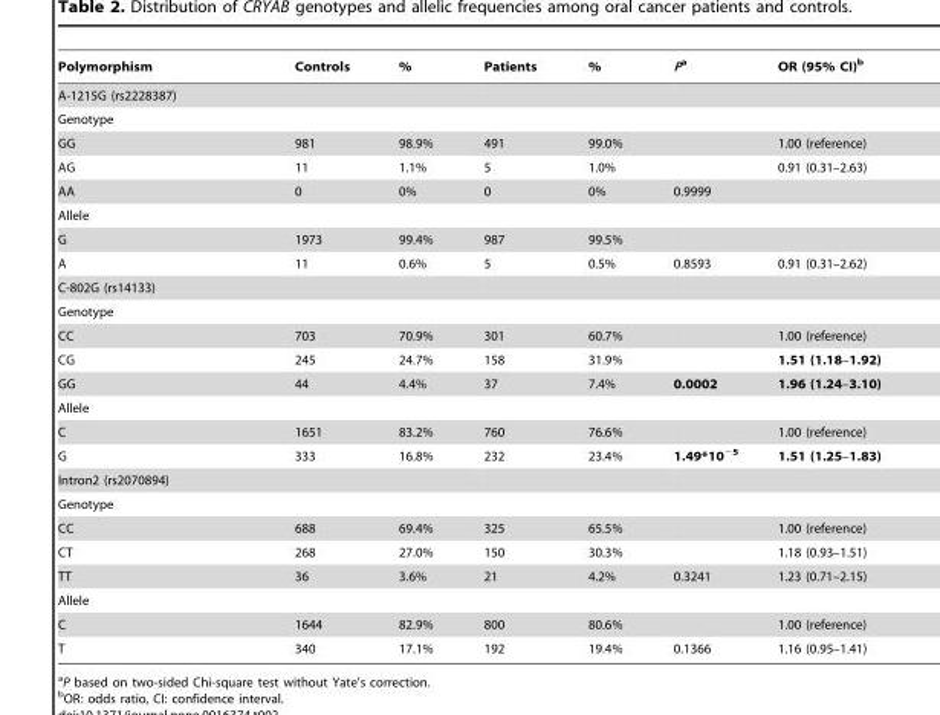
<table><thead><tr><td>Polymorphism</td><td>Controls</td><td>%</td><td>Patients</td><td>%</td><td>Pa</td><td>OR (95% CI)<sup>b</sup></td></tr></thead><tbody><tr><td colspan="7">A-1215G (rs2228387)</td></tr><tr><td colspan="7">Genotype</td></tr><tr><td>GG</td><td>981</td><td>98.9%</td><td>491</td><td>99.0%</td><td></td><td>1.00 (reference)</td></tr><tr><td>AG</td><td>11</td><td>1.1%</td><td>5</td><td>1.0%</td><td></td><td>0.91 (0.31–2.63)</td></tr><tr><td>AA</td><td>0</td><td>0%</td><td>0</td><td>0%</td><td>0.9999</td><td></td></tr><tr><td colspan="7">Allele</td></tr><tr><td>G</td><td>1973</td><td>99.4%</td><td>987</td><td>99.5%</td><td></td><td></td></tr><tr><td>A</td><td>11</td><td>0.6%</td><td>5</td><td>0.5%</td><td>0.8593</td><td>0.91 (0.31–2.62)</td></tr><tr><td colspan="7">C-802G (rs14133)</td></tr><tr><td colspan="7">Genotype</td></tr><tr><td>CC</td><td>703</td><td>70.9%</td><td>301</td><td>60.7%</td><td></td><td>1.00 (reference)</td></tr><tr><td>CG</td><td>245</td><td>24.7%</td><td>158</td><td>31.9%</td><td></td><td>1.51 (1.18–1.92)</td></tr><tr><td>GG</td><td>44</td><td>4.4%</td><td>37</td><td>7.4%</td><td>0.0002</td><td>1.96 (1.24–3.10)</td></tr><tr><td colspan="7">Allele</td></tr><tr><td>C</td><td>1651</td><td>83.2%</td><td>760</td><td>76.6%</td><td></td><td>1.00 (reference)</td></tr><tr><td>G</td><td>333</td><td>16.8%</td><td>232</td><td>23.4%</td><td>1.49*10<sup>−5</sup></td><td>1.51 (1.25–1.83)</td></tr><tr><td colspan="7">Intron2 (rs2070894)</td></tr><tr><td colspan="7">Genotype</td></tr><tr><td>CC</td><td>688</td><td>69.4%</td><td>325</td><td>65.5%</td><td></td><td>1.00 (reference)</td></tr><tr><td>CT</td><td>268</td><td>27.0%</td><td>150</td><td>30.3%</td><td></td><td>1.18 (0.93–1.51)</td></tr><tr><td>TT</td><td>36</td><td>3.6%</td><td>21</td><td>4.2%</td><td>0.3241</td><td>1.23 (0.71–2.15)</td></tr><tr><td colspan="7">Allele</td></tr><tr><td>C</td><td>1644</td><td>82.9%</td><td>800</td><td>80.6%</td><td></td><td>1.00 (reference)</td></tr><tr><td>T</td><td>340</td><td>17.1%</td><td>192</td><td>19.4%</td><td>0.1366</td><td>1.16 (0.95–1.41)</td></tr></tbody></table>